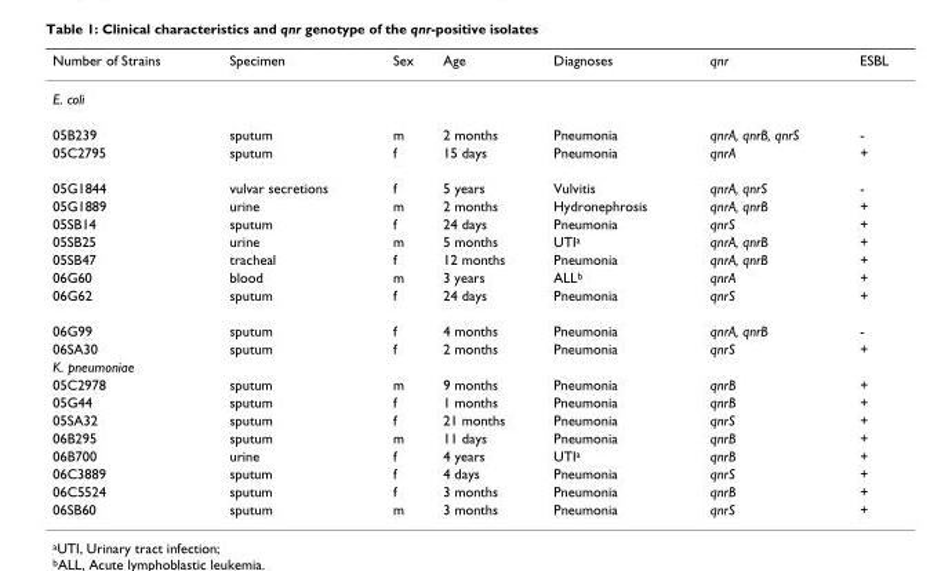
<table><thead><tr><td>Number of Strains</td><td>Specimen</td><td>Sex</td><td>Age</td><td>Diagnoses</td><td>qnr</td><td>ESBL</td></tr></thead><tbody><tr><td colspan="7">E. coli</td></tr><tr><td>05B239</td><td>sputum</td><td>m</td><td>2 months</td><td>Pneumonia</td><td>qnrA, qnrB, qnrS</td><td>-</td></tr><tr><td>05C2795</td><td>sputum</td><td>f</td><td>15 days</td><td>Pneumonia</td><td>qnrA</td><td>+</td></tr><tr><td>05G1844</td><td>vulvar secretions</td><td>f</td><td>5 years</td><td>Vulvitis</td><td>qnrA, qnrS</td><td>-</td></tr><tr><td>05G1889</td><td>urine</td><td>m</td><td>2 months</td><td>Hydronephrosis</td><td>qnrA, qnrB</td><td>+</td></tr><tr><td>05SB14</td><td>sputum</td><td>f</td><td>24 days</td><td>Pneumonia</td><td>qnrS</td><td>+</td></tr><tr><td>05SB25</td><td>urine</td><td>m</td><td>5 months</td><td>UTI<sup>a</sup></td><td>qnrA, qnrB</td><td>+</td></tr><tr><td>05SB47</td><td>tracheal</td><td>f</td><td>12 months</td><td>Pneumonia</td><td>qnrA, qnrB</td><td>+</td></tr><tr><td>06G60</td><td>blood</td><td>m</td><td>3 years</td><td>ALL<sup>b</sup></td><td>qnrA</td><td>+</td></tr><tr><td>06G62</td><td>sputum</td><td>f</td><td>24 days</td><td>Pneumonia</td><td>qnrS</td><td>+</td></tr><tr><td>06G99</td><td>sputum</td><td>f</td><td>4 months</td><td>Pneumonia</td><td>qnrA, qnrB</td><td>-</td></tr><tr><td>06SA30</td><td>sputum</td><td>f</td><td>2 months</td><td>Pneumonia</td><td>qnrS</td><td>+</td></tr><tr><td colspan="7">K. pneumoniae</td></tr><tr><td>05C2978</td><td>sputum</td><td>m</td><td>9 months</td><td>Pneumonia</td><td>qnrB</td><td>+</td></tr><tr><td>05G44</td><td>sputum</td><td>f</td><td>1 months</td><td>Pneumonia</td><td>qnrB</td><td>+</td></tr><tr><td>05SA32</td><td>sputum</td><td>f</td><td>21 months</td><td>Pneumonia</td><td>qnrS</td><td>+</td></tr><tr><td>06B295</td><td>sputum</td><td>m</td><td>11 days</td><td>Pneumonia</td><td>qnrB</td><td>+</td></tr><tr><td>06B700</td><td>urine</td><td>f</td><td>4 years</td><td>UTI<sup>a</sup></td><td>qnrB</td><td>+</td></tr><tr><td>06C3889</td><td>sputum</td><td>f</td><td>4 days</td><td>Pneumonia</td><td>qnrS</td><td>+</td></tr><tr><td>06C5524</td><td>sputum</td><td>f</td><td>3 months</td><td>Pneumonia</td><td>qnrB</td><td>+</td></tr><tr><td>06SB60</td><td>sputum</td><td>m</td><td>3 months</td><td>Pneumonia</td><td>qnrS</td><td>+</td></tr></tbody></table>